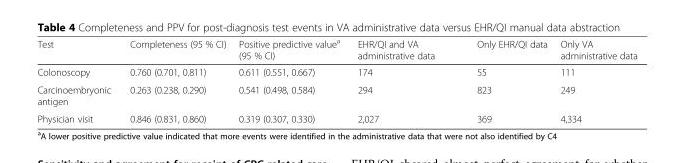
<table><thead><tr><td>Test</td><td>Completeness (95 % CI)</td><td>Positive predictive value<sup>a</sup> (95 % CI)</td><td>EHR/QI and VA administrative data</td><td>Only EHR/QI data</td><td>Only VA administrative data</td></tr></thead><tbody><tr><td>Colonoscopy</td><td>0.760 (0.701, 0.811)</td><td>0.611 (0.551, 0.667)</td><td>174</td><td>55</td><td>111</td></tr><tr><td>Carcinoembryonic antigen</td><td>0.263 (0.238, 0.290)</td><td>0.541 (0.498, 0.584)</td><td>294</td><td>823</td><td>249</td></tr><tr><td>Physician visit</td><td>0.846 (0.831, 0.860)</td><td>0.319 (0.307, 0.330)</td><td>2,027</td><td>369</td><td>4,334</td></tr></tbody></table>